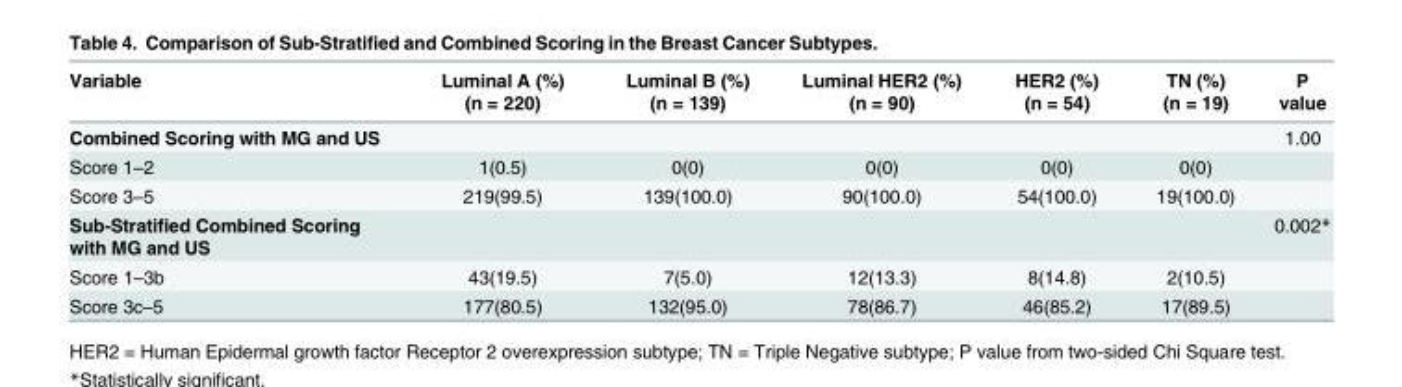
<table><thead><tr><td>Variable</td><td>Luminal A (%) (n = 220)</td><td>Luminal B (%) (n = 139)</td><td>Luminal HER2 (%) (n = 90)</td><td>HER2 (%) (n = 54)</td><td>TN (%) (n = 19)</td><td>P value</td></tr></thead><tbody><tr><td>Combined Scoring with MG and US</td><td></td><td></td><td></td><td></td><td></td><td>1.00</td></tr><tr><td>Score 1–2</td><td>1(0.5)</td><td>0(0)</td><td>0(0)</td><td>0(0)</td><td>0(0)</td><td></td></tr><tr><td>Score 3–5</td><td>219(99.5)</td><td>139(100.0)</td><td>90(100.0)</td><td>54(100.0)</td><td>19(100.0)</td><td></td></tr><tr><td>Sub-Stratified Combined Scoring with MG and US</td><td></td><td></td><td></td><td></td><td></td><td>0.002*</td></tr><tr><td>Score 1–3b</td><td>43(19.5)</td><td>7(5.0)</td><td>12(13.3)</td><td>8(14.8)</td><td>2(10.5)</td><td></td></tr><tr><td>Score 3c–5</td><td>177(80.5)</td><td>132(95.0)</td><td>78(86.7)</td><td>46(85.2)</td><td>17(89.5)</td><td></td></tr></tbody></table>